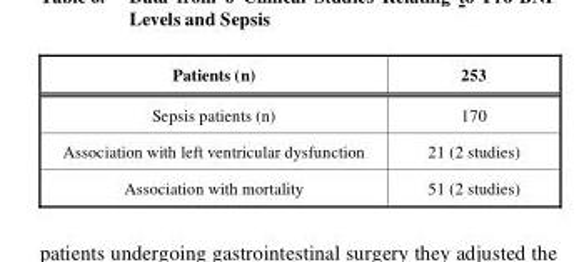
<table><thead><tr><td>Patients (n)</td><td>253</td></tr></thead><tbody><tr><td>Sepsis patients (n)</td><td>170</td></tr><tr><td>Association with left ventricular dysfunction</td><td>21 (2 studies)</td></tr><tr><td>Association with mortality</td><td>51 (2 studies)</td></tr></tbody></table>